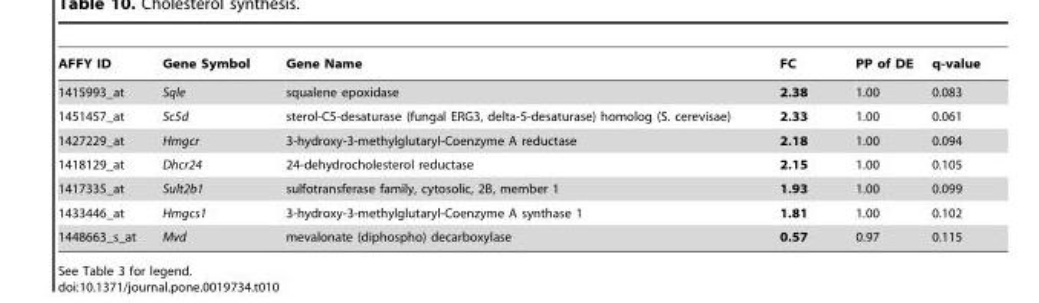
<table><thead><tr><td>AFFY ID</td><td>Gene Symbol</td><td>Gene Name</td><td>FC</td><td>PP of DE</td><td>q-value</td></tr></thead><tbody><tr><td>1415993_at</td><td>Sqle</td><td>squalene epoxidase</td><td>2.38</td><td>1.00</td><td>0.083</td></tr><tr><td>1451457_at</td><td>Sc5d</td><td>sterol-C5-desaturase (fungal ERG3, delta-5-desaturase) homolog (S. cerevisae)</td><td>2.33</td><td>1.00</td><td>0.061</td></tr><tr><td>1427229_at</td><td>Hmgcr</td><td>3-hydroxy-3-methylglutaryl-Coenzyme A reductase</td><td>2.18</td><td>1.00</td><td>0.094</td></tr><tr><td>1418129_at</td><td>Dhcr24</td><td>24-dehydrocholesterol reductase</td><td>2.15</td><td>1.00</td><td>0.105</td></tr><tr><td>1417335_at</td><td>Sult2b1</td><td>sulfotransferase family, cytosolic, 2B, member 1</td><td>1.93</td><td>1.00</td><td>0.099</td></tr><tr><td>1433446_at</td><td>Hmgcs1</td><td>3-hydroxy-3-methylglutaryl-Coenzyme A synthase 1</td><td>1.81</td><td>1.00</td><td>0.102</td></tr><tr><td>1448663_s_at</td><td>Mvd</td><td>mevalonate (diphospho) decarboxylase</td><td>0.57</td><td>0.97</td><td>0.115</td></tr></tbody></table>